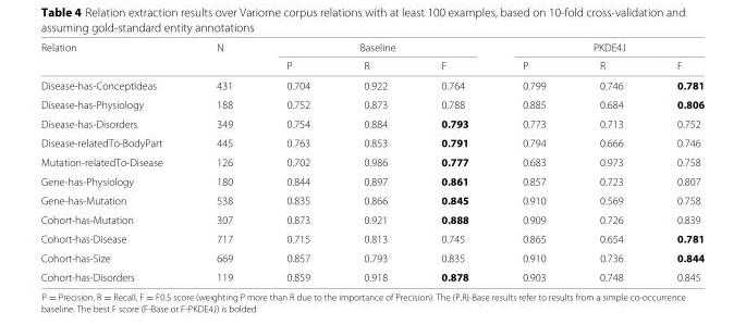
<table><thead><tr><td rowspan="2">Relation</td><td rowspan="2">N</td><td colspan="3">Baseline</td><td colspan="3">PKDE4J</td></tr><tr><td>P</td><td>R</td><td>F</td><td>P</td><td>R</td><td>F</td></tr></thead><tbody><tr><td>Disease-has-ConceptIdeas</td><td>431</td><td>0.704</td><td>0.922</td><td>0.764</td><td>0.799</td><td>0.746</td><td>0.781</td></tr><tr><td>Disease-has-Physiology</td><td>188</td><td>0.752</td><td>0.873</td><td>0.788</td><td>0.885</td><td>0.684</td><td>0.806</td></tr><tr><td>Disease-has-Disorders</td><td>349</td><td>0.754</td><td>0.884</td><td>0.793</td><td>0.773</td><td>0.713</td><td>0.752</td></tr><tr><td>Disease-relatedTo-BodyPart</td><td>445</td><td>0.763</td><td>0.853</td><td>0.791</td><td>0.794</td><td>0.666</td><td>0.746</td></tr><tr><td>Mutation-relatedTo-Disease</td><td>126</td><td>0.702</td><td>0.986</td><td>0.777</td><td>0.683</td><td>0.973</td><td>0.758</td></tr><tr><td>Gene-has-Physiology</td><td>180</td><td>0.844</td><td>0.897</td><td>0.861</td><td>0.857</td><td>0.723</td><td>0.807</td></tr><tr><td>Gene-has-Mutation</td><td>538</td><td>0.835</td><td>0.866</td><td>0.845</td><td>0.910</td><td>0.569</td><td>0.758</td></tr><tr><td>Cohort-has-Mutation</td><td>307</td><td>0.873</td><td>0.921</td><td>0.888</td><td>0.909</td><td>0.726</td><td>0.839</td></tr><tr><td>Cohort-has-Disease</td><td>717</td><td>0.715</td><td>0.813</td><td>0.745</td><td>0.865</td><td>0.654</td><td>0.781</td></tr><tr><td>Cohort-has-Size</td><td>669</td><td>0.857</td><td>0.793</td><td>0.835</td><td>0.910</td><td>0.736</td><td>0.844</td></tr><tr><td>Cohort-has-Disorders</td><td>119</td><td>0.859</td><td>0.918</td><td>0.878</td><td>0.903</td><td>0.748</td><td>0.845</td></tr></tbody></table>